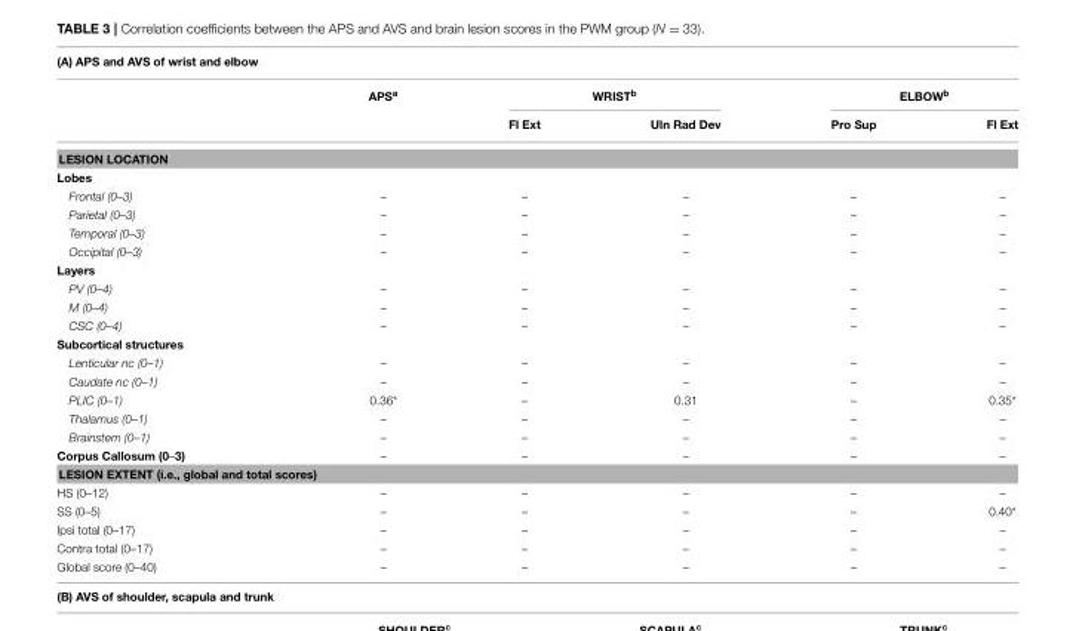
<table><thead><tr><td colspan="6">(A) APS and AVS of wrist and elbow</td></tr><tr><td rowspan="2"></td><td rowspan="2">APS<sup>a</sup></td><td colspan="2">WRIST<sup>b</sup></td><td colspan="2">ELBOW<sup>b</sup></td></tr><tr><td>Fl Ext</td><td>Uln Rad Dev</td><td>Pro Sup</td><td>Fl Ext</td></tr></thead><tbody><tr><td colspan="6">LESION LOCATION</td></tr><tr><td colspan="6">Lobes</td></tr><tr><td>Frontal (0–3)</td><td>–</td><td>–</td><td>–</td><td>–</td><td>–</td></tr><tr><td>Parietal (0–3)</td><td>–</td><td>–</td><td>–</td><td>–</td><td>–</td></tr><tr><td>Temporal (0–3)</td><td>–</td><td>–</td><td>–</td><td>–</td><td>–</td></tr><tr><td>Occipital (0–3)</td><td>–</td><td>–</td><td>–</td><td>–</td><td>–</td></tr><tr><td colspan="6">Layers</td></tr><tr><td>PV (0–4)</td><td>–</td><td>–</td><td>–</td><td>–</td><td>–</td></tr><tr><td>M (0–4)</td><td>–</td><td>–</td><td>–</td><td>–</td><td>–</td></tr><tr><td>CSC (0–4)</td><td>–</td><td>–</td><td>–</td><td>–</td><td>–</td></tr><tr><td colspan="6">Subcortical structures</td></tr><tr><td>Lenticular nc (0–1)</td><td>–</td><td>–</td><td>–</td><td>–</td><td>–</td></tr><tr><td>Caudate nc (0–1)</td><td>–</td><td>–</td><td>–</td><td>–</td><td>–</td></tr><tr><td>PLIC (0–1)</td><td>0.36*</td><td>–</td><td>0.31</td><td>–</td><td>0.35*</td></tr><tr><td>Thalamus (0–1)</td><td>–</td><td>–</td><td>–</td><td>–</td><td>–</td></tr><tr><td>Brainstem (0–1)</td><td>–</td><td>–</td><td>–</td><td>–</td><td>–</td></tr><tr><td>Corpus Callosum (0–3)</td><td>–</td><td>–</td><td>–</td><td>–</td><td>–</td></tr><tr><td colspan="6">LESION EXTENT (i.e., global and total scores)</td></tr><tr><td>HS (0–12)</td><td>–</td><td>–</td><td>–</td><td>–</td><td>–</td></tr><tr><td>SS (0–5)</td><td>–</td><td>–</td><td>–</td><td>–</td><td>0.40*</td></tr><tr><td>Ipsi total (0–17)</td><td>–</td><td>–</td><td>–</td><td>–</td><td>–</td></tr><tr><td>Contra total (0–17)</td><td>–</td><td>–</td><td>–</td><td>–</td><td>–</td></tr><tr><td>Global score (0–40)</td><td>–</td><td>–</td><td>–</td><td>–</td><td>–</td></tr></tbody></table>